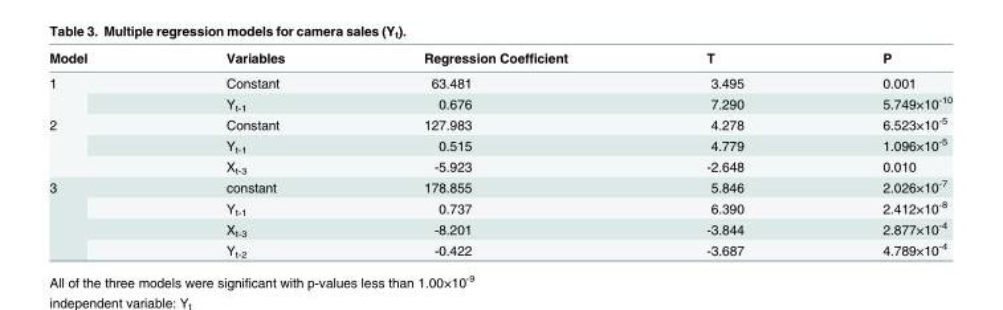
<table><thead><tr><td>Model</td><td>Variables</td><td>Regression Coefficient</td><td>T</td><td>P</td></tr></thead><tbody><tr><td rowspan="2">1</td><td>Constant</td><td>63.481</td><td>3.495</td><td>0.001</td></tr><tr><td>Y<sub>t-1</sub></td><td>0.676</td><td>7.290</td><td>5.749×10<sup>-10</sup></td></tr><tr><td rowspan="3">2</td><td>Constant</td><td>127.983</td><td>4.278</td><td>6.523×10<sup>-5</sup></td></tr><tr><td>Y<sub>t-1</sub></td><td>0.515</td><td>4.779</td><td>1.096×10<sup>-5</sup></td></tr><tr><td>X<sub>t-3</sub></td><td>-5.923</td><td>-2.648</td><td>0.010</td></tr><tr><td rowspan="4">3</td><td>constant</td><td>178.855</td><td>5.846</td><td>2.026×10<sup>-7</sup></td></tr><tr><td>Y<sub>t-1</sub></td><td>0.737</td><td>6.390</td><td>2.412×10<sup>-8</sup></td></tr><tr><td>X<sub>t-3</sub></td><td>-8.201</td><td>-3.844</td><td>2.877×10<sup>-4</sup></td></tr><tr><td>Y<sub>t-2</sub></td><td>-0.422</td><td>-3.687</td><td>4.789×10<sup>-4</sup></td></tr></tbody></table>